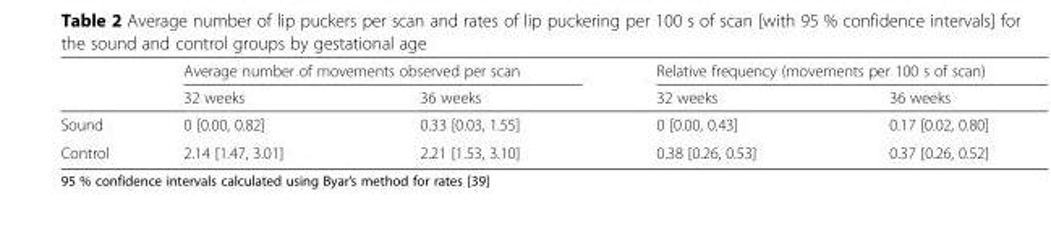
<table><thead><tr><td rowspan="2"></td><td colspan="2">Average number of movements observed per scan</td><td colspan="2">Relative frequency (movements per 100 s of scan)</td></tr><tr><td>32 weeks</td><td>36 weeks</td><td>32 weeks</td><td>36 weeks</td></tr></thead><tbody><tr><td>Sound</td><td>0 [0.00, 0.82]</td><td>0.33 [0.03, 1.55]</td><td>0 [0.00, 0.43]</td><td>0.17 [0.02, 0.80]</td></tr><tr><td>Control</td><td>2.14 [1.47, 3.01]</td><td>2.21 [1.53, 3.10]</td><td>0.38 [0.26, 0.53]</td><td>0.37 [0.26, 0.52]</td></tr></tbody></table>